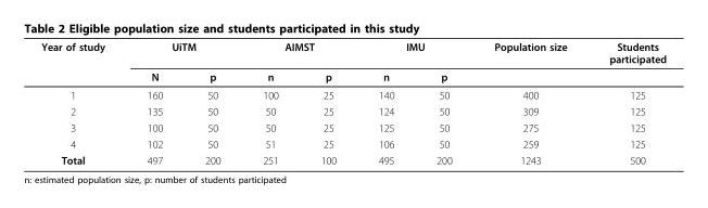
<table><thead><tr><td rowspan="2">Year of study</td><td colspan="2">UiTM</td><td colspan="2">AIMST</td><td colspan="2">IMU</td><td rowspan="2">Population size</td><td rowspan="2">Students participated</td></tr><tr><td>N</td><td>p</td><td>n</td><td>p</td><td>n</td><td>p</td></tr></thead><tbody><tr><td>1</td><td>160</td><td>50</td><td>100</td><td>25</td><td>140</td><td>50</td><td>400</td><td>125</td></tr><tr><td>2</td><td>135</td><td>50</td><td>50</td><td>25</td><td>124</td><td>50</td><td>309</td><td>125</td></tr><tr><td>3</td><td>100</td><td>50</td><td>50</td><td>25</td><td>125</td><td>50</td><td>275</td><td>125</td></tr><tr><td>4</td><td>102</td><td>50</td><td>51</td><td>25</td><td>106</td><td>50</td><td>259</td><td>125</td></tr><tr><td>Total</td><td>497</td><td>200</td><td>251</td><td>100</td><td>495</td><td>200</td><td>1243</td><td>500</td></tr></tbody></table>